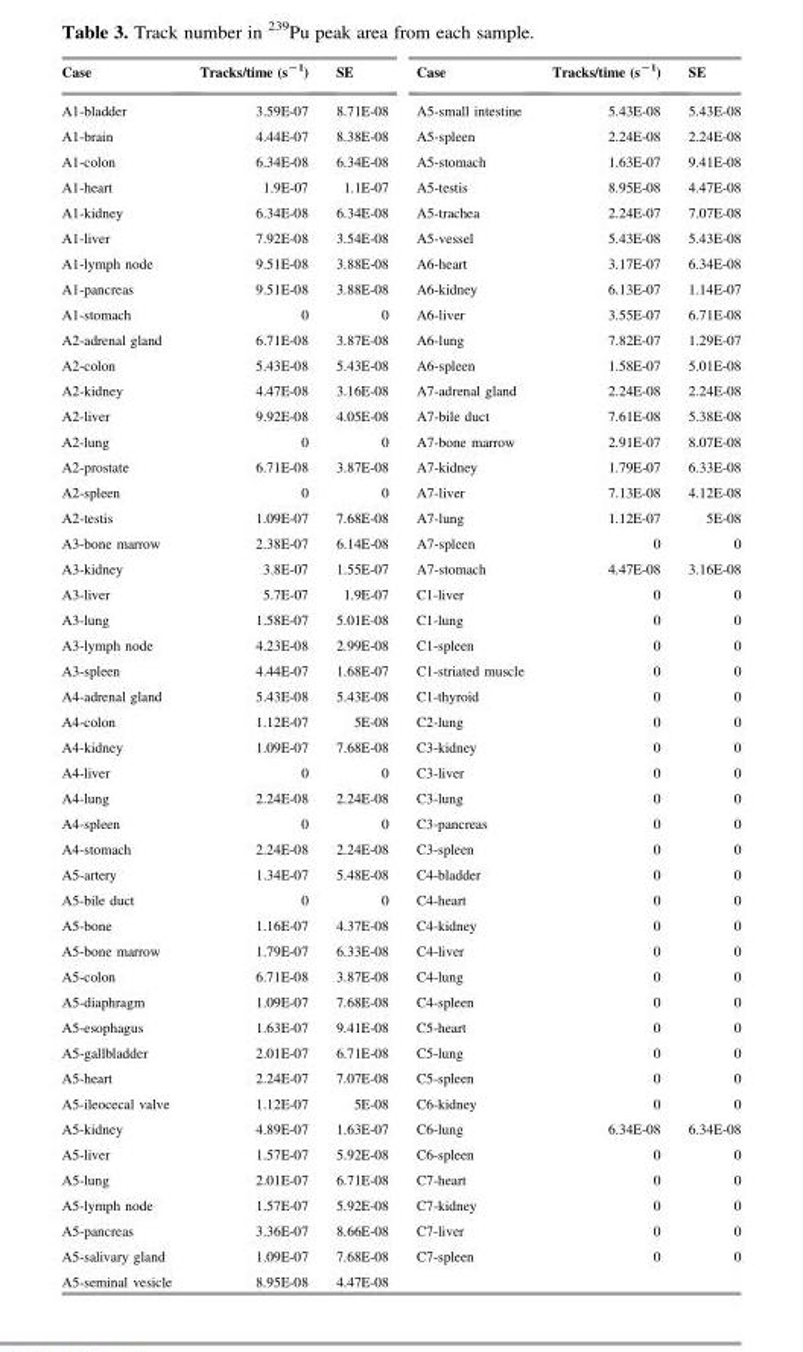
<table><thead><tr><td>Case</td><td>Tracks/time (s<sup>−1</sup>)</td><td>SE</td><td>Case</td><td>Tracks/time (s<sup>−1</sup>)</td><td>SE</td></tr></thead><tbody><tr><td>A1-bladder</td><td>3.59E-07</td><td>8.71E-08</td><td>A5-small intestine</td><td>5.43E-08</td><td>5.43E-08</td></tr><tr><td>A1-brain</td><td>4.44E-07</td><td>8.38E-08</td><td>A5-spleen</td><td>2.24E-08</td><td>2.24E-08</td></tr><tr><td>A1-colon</td><td>6.34E-08</td><td>6.34E-08</td><td>A5-stomach</td><td>1.63E-07</td><td>9.41E-08</td></tr><tr><td>A1-heart</td><td>1.9E-07</td><td>1.1E-07</td><td>A5-testis</td><td>8.95E-08</td><td>4.47E-08</td></tr><tr><td>A1-kidney</td><td>6.34E-08</td><td>6.34E-08</td><td>A5-trachea</td><td>2.24E-07</td><td>7.07E-08</td></tr><tr><td>A1-liver</td><td>7.92E-08</td><td>3.54E-08</td><td>A5-vessel</td><td>5.43E-08</td><td>5.43E-08</td></tr><tr><td>A1-lymph node</td><td>9.51E-08</td><td>3.88E-08</td><td>A6-heart</td><td>3.17E-07</td><td>6.34E-08</td></tr><tr><td>A1-pancreas</td><td>9.51E-08</td><td>3.88E-08</td><td>A6-kidney</td><td>6.13E-07</td><td>1.14E-07</td></tr><tr><td>A1-stomach</td><td>0</td><td>0</td><td>A6-liver</td><td>3.55E-07</td><td>6.71E-08</td></tr><tr><td>A2-adrenal gland</td><td>6.71E-08</td><td>3.87E-08</td><td>A6-lung</td><td>7.82E-07</td><td>1.29E-07</td></tr><tr><td>A2-colon</td><td>5.43E-08</td><td>5.43E-08</td><td>A6-spleen</td><td>1.58E-07</td><td>5.01E-08</td></tr><tr><td>A2-kidney</td><td>4.47E-08</td><td>3.16E-08</td><td>A7-adrenal gland</td><td>2.24E-08</td><td>2.24E-08</td></tr><tr><td>A2-liver</td><td>9.92E-08</td><td>4.05E-08</td><td>A7-bile duct</td><td>7.61E-08</td><td>5.38E-08</td></tr><tr><td>A2-lung</td><td>0</td><td>0</td><td>A7-bone marrow</td><td>2.91E-07</td><td>8.07E-08</td></tr><tr><td>A2-prostate</td><td>6.71E-08</td><td>3.87E-08</td><td>A7-kidney</td><td>1.79E-07</td><td>6.33E-08</td></tr><tr><td>A2-spleen</td><td>0</td><td>0</td><td>A7-liver</td><td>7.13E-08</td><td>4.12E-08</td></tr><tr><td>A2-testis</td><td>1.09E-07</td><td>7.68E-08</td><td>A7-lung</td><td>1.12E-07</td><td>5E-08</td></tr><tr><td>A3-bone marrow</td><td>2.38E-07</td><td>6.14E-08</td><td>A7-spleen</td><td>0</td><td>0</td></tr><tr><td>A3-kidney</td><td>3.8E-07</td><td>1.55E-07</td><td>A7-stomach</td><td>4.47E-08</td><td>3.16E-08</td></tr><tr><td>A3-liver</td><td>5.7E-07</td><td>1.9E-07</td><td>C1-liver</td><td>0</td><td>0</td></tr><tr><td>A3-lung</td><td>1.58E-07</td><td>5.01E-08</td><td>C1-lung</td><td>0</td><td>0</td></tr><tr><td>A3-lymph node</td><td>4.23E-08</td><td>2.99E-08</td><td>C1-spleen</td><td>0</td><td>0</td></tr><tr><td>A3-spleen</td><td>4.44E-07</td><td>1.68E-07</td><td>C1-striated muscle</td><td>0</td><td>0</td></tr><tr><td>A4-adrenal gland</td><td>5.43E-08</td><td>5.43E-08</td><td>C1-thyroid</td><td>0</td><td>0</td></tr><tr><td>A4-colon</td><td>1.12E-07</td><td>5E-08</td><td>C2-lung</td><td>0</td><td>0</td></tr><tr><td>A4-kidney</td><td>1.09E-07</td><td>7.68E-08</td><td>C3-kidney</td><td>0</td><td>0</td></tr><tr><td>A4-liver</td><td>0</td><td>0</td><td>C3-liver</td><td>0</td><td>0</td></tr><tr><td>A4-lung</td><td>2.24E-08</td><td>2.24E-08</td><td>C3-lung</td><td>0</td><td>0</td></tr><tr><td>A4-spleen</td><td>0</td><td>0</td><td>C3-pancreas</td><td>0</td><td>0</td></tr><tr><td>A4-stomach</td><td>2.24E-08</td><td>2.24E-08</td><td>C3-spleen</td><td>0</td><td>0</td></tr><tr><td>A5-artery</td><td>1.34E-07</td><td>5.48E-08</td><td>C4-bladder</td><td>0</td><td>0</td></tr><tr><td>A5-bile duct</td><td>0</td><td>0</td><td>C4-heart</td><td>0</td><td>0</td></tr><tr><td>A5-bone</td><td>1.16E-07</td><td>4.37E-08</td><td>C4-kidney</td><td>0</td><td>0</td></tr><tr><td>A5-bone marrow</td><td>1.79E-07</td><td>6.33E-08</td><td>C4-liver</td><td>0</td><td>0</td></tr><tr><td>A5-colon</td><td>6.71E-08</td><td>3.87E-08</td><td>C4-lung</td><td>0</td><td>0</td></tr><tr><td>A5-diaphragm</td><td>1.09E-07</td><td>7.68E-08</td><td>C4-spleen</td><td>0</td><td>0</td></tr><tr><td>A5-esophagus</td><td>1.63E-07</td><td>9.41E-08</td><td>C5-heart</td><td>0</td><td>0</td></tr><tr><td>A5-gallbladder</td><td>2.01E-07</td><td>6.71E-08</td><td>C5-lung</td><td>0</td><td>0</td></tr><tr><td>A5-heart</td><td>2.24E-07</td><td>7.07E-08</td><td>C5-spleen</td><td>0</td><td>0</td></tr><tr><td>A5-ileocecal valve</td><td>1.12E-07</td><td>5E-08</td><td>C6-kidney</td><td>0</td><td>0</td></tr><tr><td>A5-kidney</td><td>4.89E-07</td><td>1.63E-07</td><td>C6-lung</td><td>6.34E-08</td><td>6.34E-08</td></tr><tr><td>A5-liver</td><td>1.57E-07</td><td>5.92E-08</td><td>C6-spleen</td><td>0</td><td>0</td></tr><tr><td>A5-lung</td><td>2.01E-07</td><td>6.71E-08</td><td>C7-heart</td><td>0</td><td>0</td></tr><tr><td>A5-lymph node</td><td>1.57E-07</td><td>5.92E-08</td><td>C7-kidney</td><td>0</td><td>0</td></tr><tr><td>A5-pancreas</td><td>3.36E-07</td><td>8.66E-08</td><td>C7-liver</td><td>0</td><td>0</td></tr><tr><td>A5-salivary gland</td><td>1.09E-07</td><td>7.68E-08</td><td>C7-spleen</td><td>0</td><td>0</td></tr><tr><td>A5-seminal vesicle</td><td>8.95E-08</td><td>4.47E-08</td><td></td><td></td><td></td></tr></tbody></table>